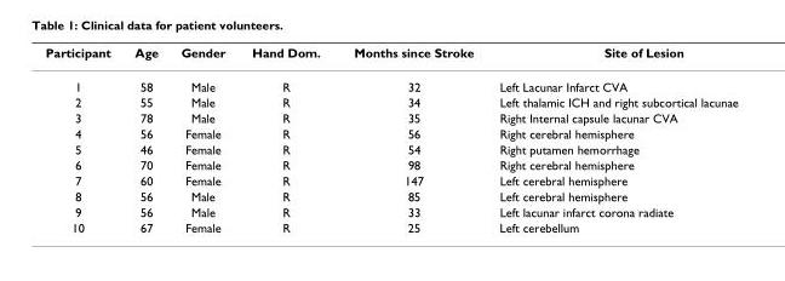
<table><thead><tr><td>Participant</td><td>Age</td><td>Gender</td><td>Hand Dom.</td><td>Months since Stroke</td><td>Site of Lesion</td></tr></thead><tbody><tr><td>1</td><td>58</td><td>Male</td><td>R</td><td>32</td><td>Left Lacunar Infarct CVA</td></tr><tr><td>2</td><td>55</td><td>Male</td><td>R</td><td>34</td><td>Left thalamic ICH and right subcortical lacunae</td></tr><tr><td>3</td><td>78</td><td>Male</td><td>R</td><td>35</td><td>Right Internal capsule lacunar CVA</td></tr><tr><td>4</td><td>56</td><td>Female</td><td>R</td><td>56</td><td>Right cerebral hemisphere</td></tr><tr><td>5</td><td>46</td><td>Female</td><td>R</td><td>54</td><td>Right putamen hemorrhage</td></tr><tr><td>6</td><td>70</td><td>Female</td><td>R</td><td>98</td><td>Right cerebral hemisphere</td></tr><tr><td>7</td><td>60</td><td>Female</td><td>R</td><td>147</td><td>Left cerebral hemisphere</td></tr><tr><td>8</td><td>56</td><td>Male</td><td>R</td><td>85</td><td>Left cerebral hemisphere</td></tr><tr><td>9</td><td>56</td><td>Male</td><td>R</td><td>33</td><td>Left lacunar infarct corona radiate</td></tr><tr><td>10</td><td>67</td><td>Female</td><td>R</td><td>25</td><td>Left cerebellum</td></tr></tbody></table>